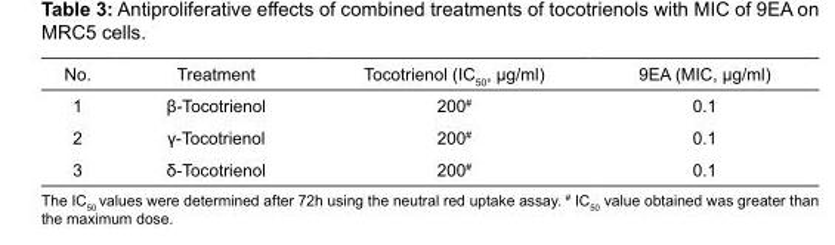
<table><thead><tr><td>No.</td><td>Treatment</td><td>Tocotrienol (IC<sub>50</sub>, µg/ml)</td><td>9EA (MIC, µg/ml)</td></tr></thead><tbody><tr><td>1</td><td>β-Tocotrienol</td><td>200#</td><td>0.1</td></tr><tr><td>2</td><td>γ-Tocotrienol</td><td>200#</td><td>0.1</td></tr><tr><td>3</td><td>δ-Tocotrienol</td><td>200#</td><td>0.1</td></tr></tbody></table>